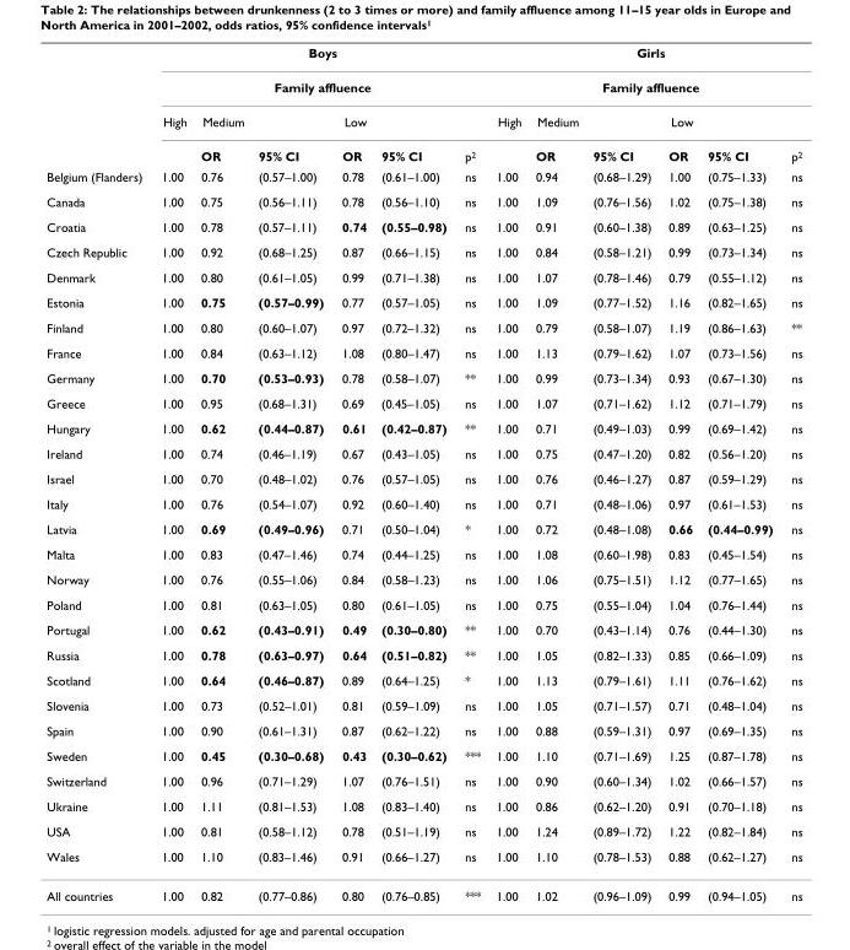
<table><thead><tr><td rowspan="32">Belgium (Flanders) Canada Croatia Czech Republic Denmark Estonia Finland France Germany Greece Hungary Ireland Israel Italy Latvia Malta Norway Poland Portugal Russia Scotland Slovenia Spain Sweden Switzerland Ukraine USA Wales</td><td rowspan="2" colspan="6">Boys Family affluence</td><td rowspan="2" colspan="6">Girls Family affluence</td></tr><tr></tr><tr><td rowspan="30">High 1.00 1.00 1.00 1.00 1.00 1.00 1.00 1.00 1.00 1.00 1.00 1.00 1.00 1.00 1.00 1.00 1.00 1.00 1.00 1.00 1.00 1.00 1.00 1.00 1.00 1.00 1.00 1.00</td><td rowspan="30">Medium OR 0.76 0.75 0.78 0.92 0.80 0.75 0.80 0.84 0.70 0.95 0.62 0.74 0.70 0.76 0.69 0.83 0.76 0.81 0.62 0.78 0.64 0.73 0.90 0.45 0.96 1.11 0.81 1.10</td><td rowspan="30">95% CI (0.57–1.00) (0.56–1.11) (0.57–1.11) (0.68–1.25) (0.61–1.05) (0.57–0.99) (0.60–1.07) (0.63–1.12) (0.53–0.93) (0.68–1.31) (0.44–0.87) (0.46–1.19) (0.48–1.02) (0.54–1.07) (0.49–0.96) (0.47–1.46) (0.55–1.06) (0.63–1.05) (0.43–0.91) (0.63–0.97) (0.46–0.87) (0.52–1.01) (0.61–1.31) (0.30–0.68) (0.71–1.29) (0.81–1.53) (0.58–1.12) (0.83–1.46)</td><td rowspan="30">Low OR 0.78 0.78 0.74 0.87 0.99 0.77 0.97 1.08 0.78 0.69 0.61 0.67 0.76 0.92 0.71 0.74 0.84 0.80 0.49 0.64 0.89 0.81 0.87 0.43 1.07 1.08 0.78 0.91</td><td rowspan="30">95% CI (0.61–1.00) (0.56–1.10) (0.55–0.98) (0.66–1.15) (0.71–1.38) (0.57–1.05) (0.72–1.32) (0.80–1.47) (0.58–1.07) (0.45–1.05) (0.42–0.87) (0.43–1.05) (0.57–1.05) (0.60–1.40) (0.50–1.04) (0.44–1.25) (0.58–1.23) (0.61–1.05) (0.30–0.80) (0.51–0.82) (0.64–1.25) (0.59–1.09) (0.62–1.22) (0.30–0.62) (0.76–1.51) (0.83–1.40) (0.51–1.19) (0.66–1.27)</td><td rowspan="30">p2 ns ns ns ns ns ns ns ns ** ns ** ns ns ns * ns ns ns ** ** * ns ns *** ns ns ns ns</td><td rowspan="30">High 1.00 1.00 1.00 1.00 1.00 1.00 1.00 1.00 1.00 1.00 1.00 1.00 1.00 1.00 1.00 1.00 1.00 1.00 1.00 1.00 1.00 1.00 1.00 1.00 1.00 1.00 1.00 1.00</td><td rowspan="30">Medium OR 0.94 1.09 0.91 0.84 1.07 1.09 0.79 1.13 0.99 1.07 0.71 0.75 0.76 0.71 0.72 1.08 1.06 0.75 0.70 1.05 1.13 1.05 0.88 1.10 0.90 0.86 1.24 1.10</td><td rowspan="30">95% CI (0.68–1.29) (0.76–1.56) (0.60–1.38) (0.58–1.21) (0.78–1.46) (0.77–1.52) (0.58–1.07) (0.79–1.62) (0.73–1.34) (0.71–1.62) (0.49–1.03) (0.47–1.20) (0.46–1.27) (0.48–1.06) (0.48–1.08) (0.60–1.98) (0.75–1.51) (0.55–1.04) (0.43–1.14) (0.82–1.33) (0.79–1.61) (0.71–1.57) (0.59–1.31) (0.71–1.69) (0.60–1.34) (0.62–1.20) (0.89–1.72) (0.78–1.53)</td><td rowspan="30">Low OR 1.00 1.02 0.89 0.99 0.79 1.16 1.19 1.07 0.93 1.12 0.99 0.82 0.87 0.97 0.66 0.83 1.12 1.04 0.76 0.85 1.11 0.71 0.97 1.25 1.02 0.91 1.22 0.88</td><td rowspan="30">95% CI (0.75–1.33) (0.75–1.38) (0.63–1.25) (0.73–1.34) (0.55–1.12) (0.82–1.65) (0.86–1.63) (0.73–1.56) (0.67–1.30) (0.71–1.79) (0.69–1.42) (0.56–1.20) (0.59–1.29) (0.61–1.53) (0.44–0.99) (0.45–1.54) (0.77–1.65) (0.76–1.44) (0.44–1.30) (0.66–1.09) (0.76–1.62) (0.48–1.04) (0.69–1.35) (0.87–1.78) (0.66–1.57) (0.70–1.18) (0.82–1.84) (0.62–1.27)</td><td rowspan="30">p2 ns ns ns ns ns ns ** ns ns ns ns ns ns ns ns ns ns ns ns ns ns ns ns ns ns ns ns ns</td></tr><tr></tr><tr></tr><tr></tr><tr></tr><tr></tr><tr></tr><tr></tr><tr></tr><tr></tr><tr></tr><tr></tr><tr></tr><tr></tr><tr></tr><tr></tr><tr></tr><tr></tr><tr></tr><tr></tr><tr></tr><tr></tr><tr></tr><tr></tr><tr></tr><tr></tr><tr></tr><tr></tr><tr></tr><tr></tr></thead><tbody><tr><td>All countries</td><td>1.00</td><td>0.82</td><td>(0.77–0.86)</td><td>0.80</td><td>(0.76–0.85)</td><td>***</td><td>1.00</td><td>1.02</td><td>(0.96–1.09)</td><td>0.99</td><td>(0.94–1.05)</td><td>ns</td></tr></tbody></table>